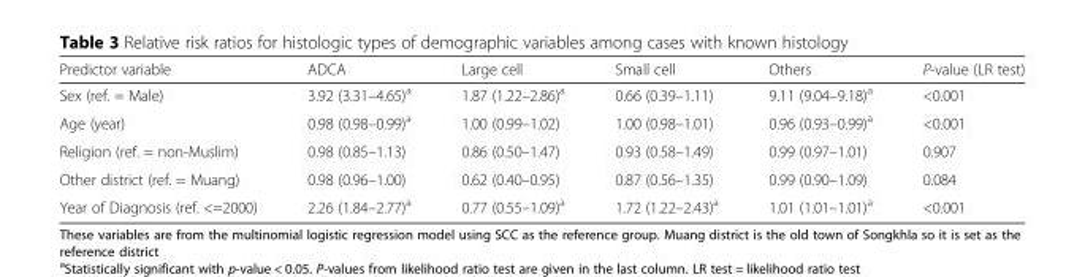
<table><thead><tr><td>Predictor variable</td><td>ADCA</td><td>Large cell</td><td>Small cell</td><td>Others</td><td>P-value (LR test)</td></tr></thead><tbody><tr><td>Sex (ref. = Male)</td><td>3.92 (3.31–4.65)<sup>a</sup></td><td>1.87 (1.22–2.86)<sup>a</sup></td><td>0.66 (0.39–1.11)</td><td>9.11 (9.04–9.18)<sup>a</sup></td><td>&lt;0.001</td></tr><tr><td>Age (year)</td><td>0.98 (0.98–0.99)<sup>a</sup></td><td>1.00 (0.99–1.02)</td><td>1.00 (0.98–1.01)</td><td>0.96 (0.93–0.99)<sup>a</sup></td><td>&lt;0.001</td></tr><tr><td>Religion (ref. = non-Muslim)</td><td>0.98 (0.85–1.13)</td><td>0.86 (0.50–1.47)</td><td>0.93 (0.58–1.49)</td><td>0.99 (0.97–1.01)</td><td>0.907</td></tr><tr><td>Other district (ref. = Muang)</td><td>0.98 (0.96–1.00)</td><td>0.62 (0.40–0.95)</td><td>0.87 (0.56–1.35)</td><td>0.99 (0.90–1.09)</td><td>0.084</td></tr><tr><td>Year of Diagnosis (ref. &lt;=2000)</td><td>2.26 (1.84–2.77)<sup>a</sup></td><td>0.77 (0.55–1.09)<sup>a</sup></td><td>1.72 (1.22–2.43)<sup>a</sup></td><td>1.01 (1.01–1.01)<sup>a</sup></td><td>&lt;0.001</td></tr></tbody></table>